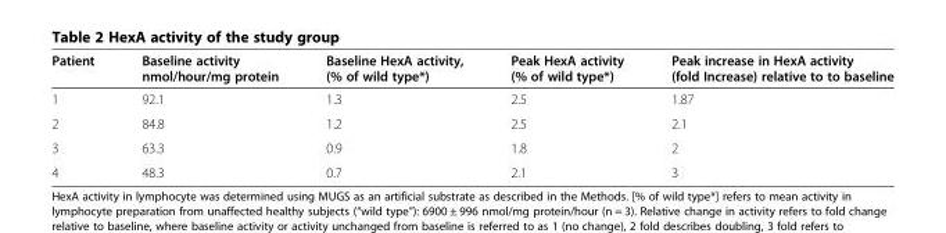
<table><thead><tr><td>Patient</td><td>Baseline activity nmol/hour/mg protein</td><td>Baseline HexA activity, (% of wild type*)</td><td>Peak HexA activity (% of wild type*)</td><td>Peak increase in HexA activity (fold Increase) relative to to baseline</td></tr></thead><tbody><tr><td>1</td><td>92.1</td><td>1.3</td><td>2.5</td><td>1.87</td></tr><tr><td>2</td><td>84.8</td><td>1.2</td><td>2.5</td><td>2.1</td></tr><tr><td>3</td><td>63.3</td><td>0.9</td><td>1.8</td><td>2</td></tr><tr><td>4</td><td>48.3</td><td>0.7</td><td>2.1</td><td>3</td></tr></tbody></table>